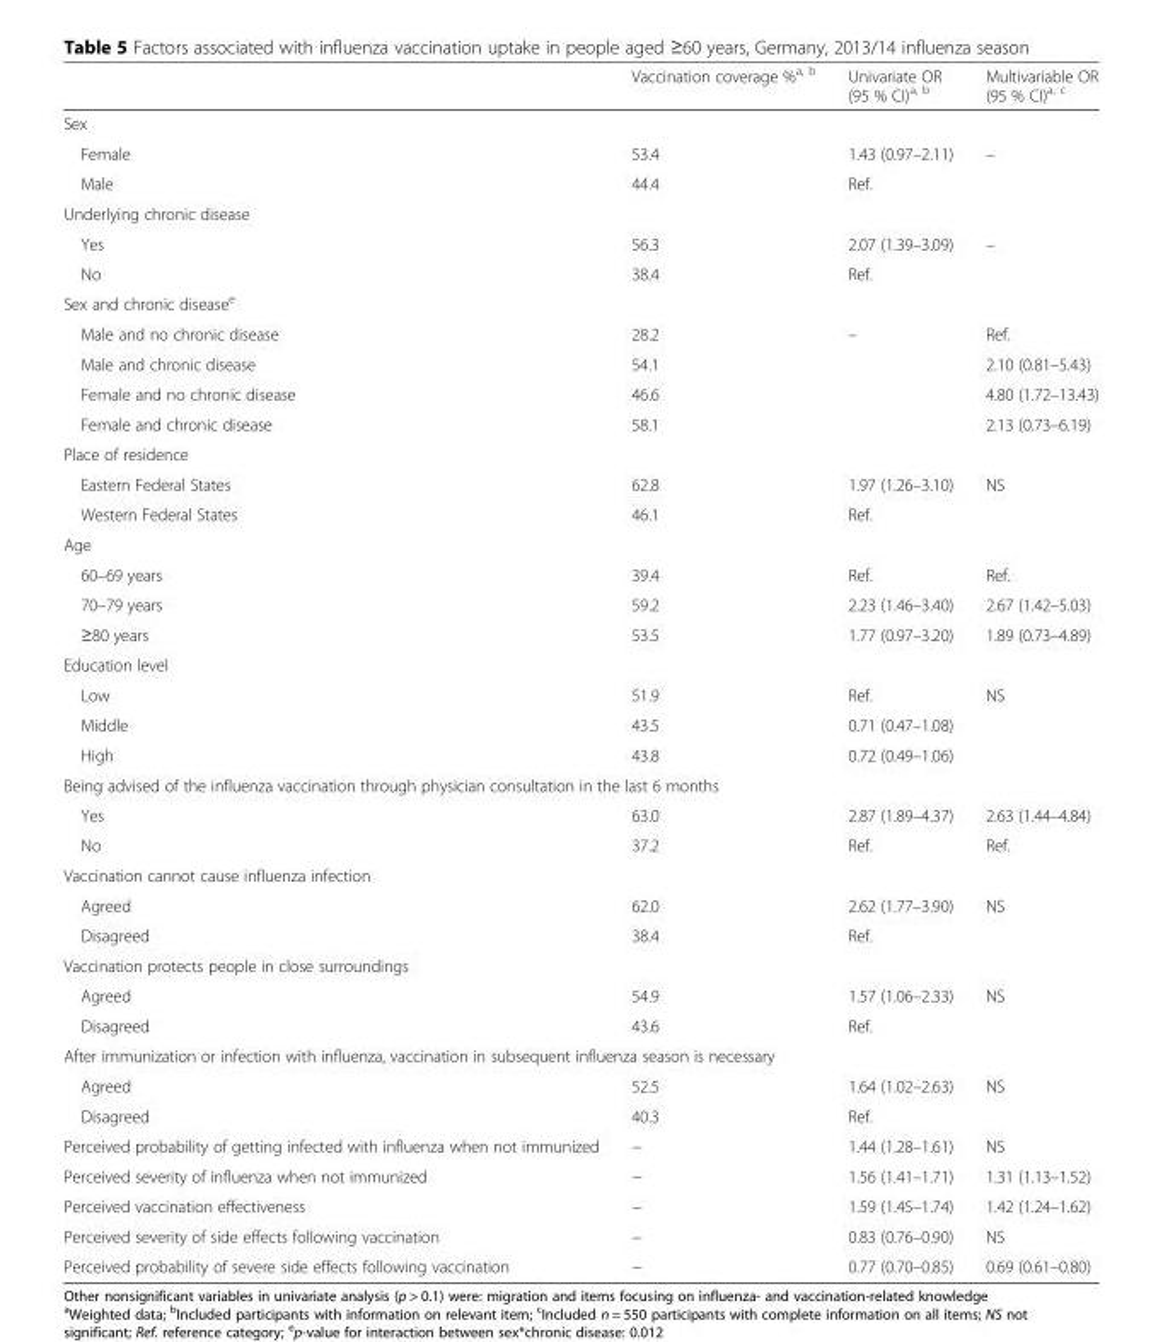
<table><thead><tr><td></td><td>Vaccination coverage %<sup>a, b</sup></td><td>Univariate OR (95 % CI)<sup>a, b</sup></td><td>Multivariable OR (95 % CI)<sup>a, c</sup></td></tr></thead><tbody><tr><td colspan="4">Sex</td></tr><tr><td>Female</td><td>53.4</td><td>1.43 (0.97–2.11)</td><td rowspan="2">–</td></tr><tr><td>Male</td><td>44.4</td><td>Ref.</td></tr><tr><td colspan="4">Underlying chronic disease</td></tr><tr><td>Yes</td><td>56.3</td><td>2.07 (1.39–3.09)</td><td rowspan="2">–</td></tr><tr><td>No</td><td>38.4</td><td>Ref.</td></tr><tr><td colspan="4">Sex and chronic disease<sup>e</sup></td></tr><tr><td>Male and no chronic disease</td><td>28.2</td><td rowspan="4">–</td><td>Ref.</td></tr><tr><td>Male and chronic disease</td><td>54.1</td><td>2.10 (0.81–5.43)</td></tr><tr><td>Female and no chronic disease</td><td>46.6</td><td>4.80 (1.72–13.43)</td></tr><tr><td>Female and chronic disease</td><td>58.1</td><td>2.13 (0.73–6.19)</td></tr><tr><td colspan="4">Place of residence</td></tr><tr><td>Eastern Federal States</td><td>62.8</td><td>1.97 (1.26–3.10)</td><td rowspan="2">NS</td></tr><tr><td>Western Federal States</td><td>46.1</td><td>Ref.</td></tr><tr><td colspan="4">Age</td></tr><tr><td>60–69 years</td><td>39.4</td><td>Ref.</td><td>Ref.</td></tr><tr><td>70–79 years</td><td>59.2</td><td>2.23 (1.46–3.40)</td><td>2.67 (1.42–5.03)</td></tr><tr><td>≥80 years</td><td>53.5</td><td>1.77 (0.97–3.20)</td><td>1.89 (0.73–4.89)</td></tr><tr><td colspan="4">Education level</td></tr><tr><td>Low</td><td>51.9</td><td>Ref.</td><td rowspan="3">NS</td></tr><tr><td>Middle</td><td>43.5</td><td>0.71 (0.47–1.08)</td></tr><tr><td>High</td><td>43.8</td><td>0.72 (0.49–1.06)</td></tr><tr><td colspan="4">Being advised of the influenza vaccination through physician consultation in the last 6 months</td></tr><tr><td>Yes</td><td>63.0</td><td>2.87 (1.89–4.37)</td><td>2.63 (1.44–4.84)</td></tr><tr><td>No</td><td>37.2</td><td>Ref.</td><td>Ref.</td></tr><tr><td colspan="4">Vaccination cannot cause influenza infection</td></tr><tr><td>Agreed</td><td>62.0</td><td>2.62 (1.77–3.90)</td><td rowspan="2">NS</td></tr><tr><td>Disagreed</td><td>38.4</td><td>Ref.</td></tr><tr><td colspan="4">Vaccination protects people in close surroundings</td></tr><tr><td>Agreed</td><td>54.9</td><td>1.57 (1.06–2.33)</td><td rowspan="2">NS</td></tr><tr><td>Disagreed</td><td>43.6</td><td>Ref.</td></tr><tr><td colspan="4">After immunization or infection with influenza, vaccination in subsequent influenza season is necessary</td></tr><tr><td>Agreed</td><td>52.5</td><td>1.64 (1.02–2.63)</td><td rowspan="2">NS</td></tr><tr><td>Disagreed</td><td>40.3</td><td>Ref.</td></tr><tr><td>Perceived probability of getting infected with influenza when not immunized</td><td>−</td><td>1.44 (1.28–1.61)</td><td>NS</td></tr><tr><td>Perceived severity of influenza when not immunized</td><td>−</td><td>1.56 (1.41–1.71)</td><td>1.31 (1.13–1.52)</td></tr><tr><td>Perceived vaccination effectiveness</td><td>−</td><td>1.59 (1.45–1.74)</td><td>1.42 (1.24–1.62)</td></tr><tr><td>Perceived severity of side effects following vaccination</td><td>−</td><td>0.83 (0.76–0.90)</td><td>NS</td></tr><tr><td>Perceived probability of severe side effects following vaccination</td><td>−</td><td>0.77 (0.70–0.85)</td><td>0.69 (0.61–0.80)</td></tr></tbody></table>